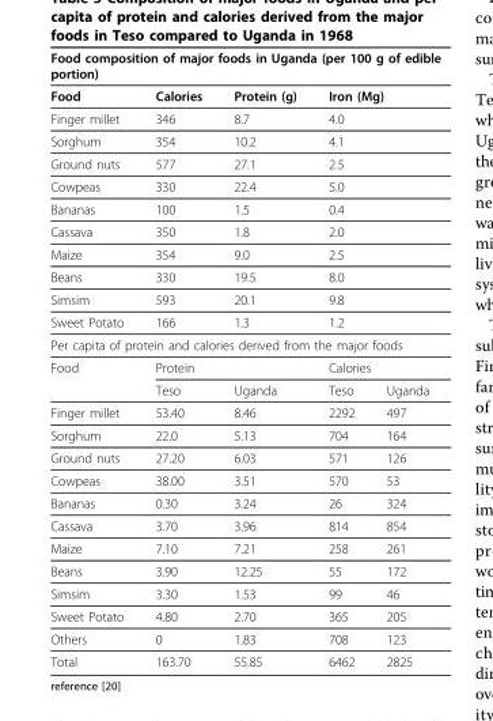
<table><thead><tr><td colspan="5">Food composition of major foods in Uganda (per 100 g of edible portion)</td></tr></thead><tbody><tr><td>Food</td><td>Calories</td><td>Protein (g)</td><td colspan="2">Iron (Mg)</td></tr><tr><td>Finger millet</td><td>346</td><td>8.7</td><td colspan="2">4.0</td></tr><tr><td>Sorghum</td><td>354</td><td>10.2</td><td colspan="2">4.1</td></tr><tr><td>Ground nuts</td><td>577</td><td>27.1</td><td colspan="2">2.5</td></tr><tr><td>Cowpeas</td><td>330</td><td>22.4</td><td colspan="2">5.0</td></tr><tr><td>Bananas</td><td>100</td><td>1.5</td><td colspan="2">0.4</td></tr><tr><td>Cassava</td><td>350</td><td>1.8</td><td colspan="2">2.0</td></tr><tr><td>Maize</td><td>354</td><td>9.0</td><td colspan="2">2.5</td></tr><tr><td>Beans</td><td>330</td><td>19.5</td><td colspan="2">8.0</td></tr><tr><td>Simsim</td><td>593</td><td>20.1</td><td colspan="2">9.8</td></tr><tr><td>Sweet Potato</td><td>166</td><td>1.3</td><td colspan="2">1.2</td></tr><tr><td colspan="5">Per capita of protein and calories derived from the major foods</td></tr><tr><td rowspan="2">Food</td><td colspan="2">Protein</td><td colspan="2">Calories</td></tr><tr><td>Teso</td><td>Uganda</td><td>Teso</td><td>Uganda</td></tr><tr><td>Finger millet</td><td>53.40</td><td>8.46</td><td>2292</td><td>497</td></tr><tr><td>Sorghum</td><td>22.0</td><td>5.13</td><td>704</td><td>164</td></tr><tr><td>Ground nuts</td><td>27.20</td><td>6.03</td><td>571</td><td>126</td></tr><tr><td>Cowpeas</td><td>38.00</td><td>3.51</td><td>570</td><td>53</td></tr><tr><td>Bananas</td><td>0.30</td><td>3.24</td><td>26</td><td>324</td></tr><tr><td>Cassava</td><td>3.70</td><td>3.96</td><td>814</td><td>854</td></tr><tr><td>Maize</td><td>7.10</td><td>7.21</td><td>258</td><td>261</td></tr><tr><td>Beans</td><td>3.90</td><td>12.25</td><td>55</td><td>172</td></tr><tr><td>Simsim</td><td>3.30</td><td>1.53</td><td>99</td><td>46</td></tr><tr><td>Sweet Potato</td><td>4.80</td><td>2.70</td><td>365</td><td>205</td></tr><tr><td>Others</td><td>0</td><td>1.83</td><td>708</td><td>123</td></tr><tr><td>Total</td><td>163.70</td><td>55.85</td><td>6462</td><td>2825</td></tr></tbody></table>